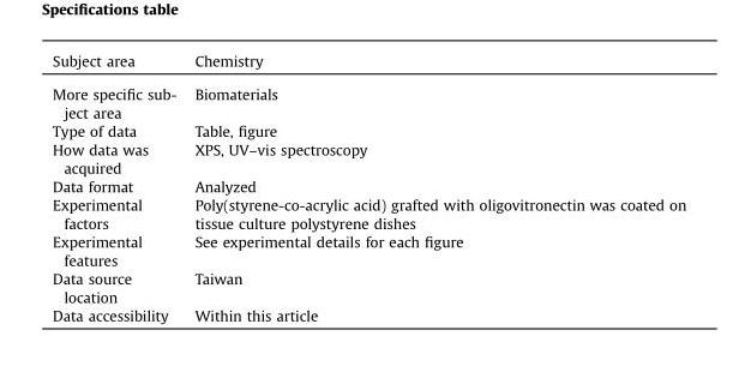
<table><thead><tr><td>Subject area</td><td>Chemistry</td></tr></thead><tbody><tr><td>More specific sub- ject area</td><td>Biomaterials</td></tr><tr><td>Type of data</td><td>Table, figure</td></tr><tr><td>How data was acquired</td><td>XPS, UV–vis spectroscopy</td></tr><tr><td>Data format</td><td>Analyzed</td></tr><tr><td>Experimental factors</td><td>Poly(styrene-co-acrylic acid) grafted with oligovitronectin was coated on tissue culture polystyrene dishes</td></tr><tr><td>Experimental features</td><td>See experimental details for each figure</td></tr><tr><td>Data source location</td><td>Taiwan</td></tr><tr><td>Data accessibility</td><td>Within this article</td></tr></tbody></table>